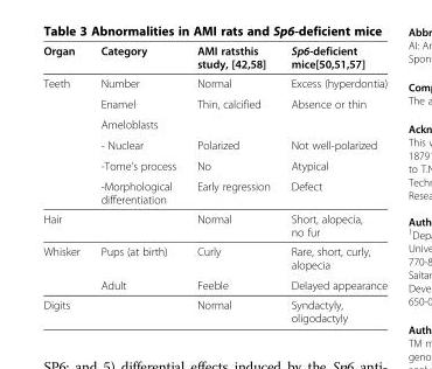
<table><thead><tr><td>Organ</td><td>Category</td><td>AMI ratsthis study, [42,58]</td><td>Sp6-deficient mice[50,51,57]</td></tr></thead><tbody><tr><td rowspan="6">Teeth</td><td>Number</td><td>Normal</td><td>Excess (hyperdontia)</td></tr><tr><td>Enamel</td><td>Thin, calcified</td><td>Absence or thin</td></tr><tr><td>Ameloblasts</td><td></td><td></td></tr><tr><td>- Nuclear</td><td>Polarized</td><td>Not well-polarized</td></tr><tr><td>-Tome’s process</td><td>No</td><td>Atypical</td></tr><tr><td>-Morphological differentiation</td><td>Early regression</td><td>Defect</td></tr><tr><td>Hair</td><td></td><td>Normal</td><td>Short, alopecia, no fur</td></tr><tr><td rowspan="2">Whisker</td><td>Pups (at birth)</td><td>Curly</td><td>Rare, short, curly, alopecia</td></tr><tr><td>Adult</td><td>Feeble</td><td>Delayed appearance</td></tr><tr><td>Digits</td><td></td><td>Normal</td><td>Syndactyly, oligodactyly</td></tr></tbody></table>